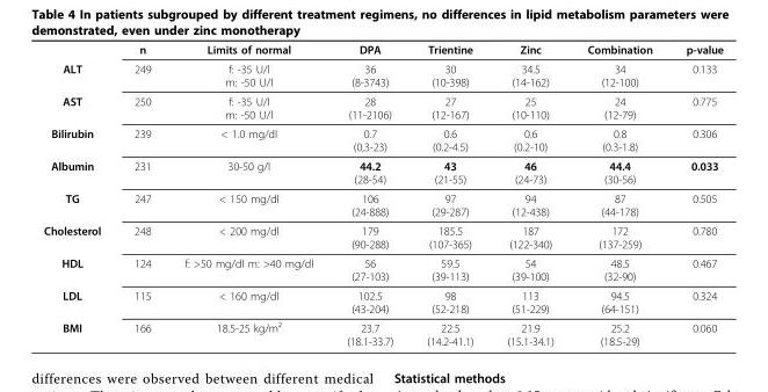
<table><thead><tr><td></td><td>n</td><td>Limits of normal</td><td>DPA</td><td>Trientine</td><td>Zinc</td><td>Combination</td><td>p-value</td></tr></thead><tbody><tr><td>ALT</td><td>249</td><td>f: -35 U/l m: -50 U/l</td><td>36 (8-3743)</td><td>30 (10-398)</td><td>34.5 (14-162)</td><td>34 (12-100)</td><td>0.133</td></tr><tr><td>AST</td><td>250</td><td>f: -35 U/l m: -50 U/l</td><td>28 (11-2106)</td><td>27 (12-167)</td><td>25 (10-110)</td><td>24 (12-79)</td><td>0.775</td></tr><tr><td>Bilirubin</td><td>239</td><td>&lt; 1.0 mg/dl</td><td>0.7 (0,3-23)</td><td>0.6 (0.2-4.5)</td><td>0.6 (0.2-10)</td><td>0.8 (0.3-1.8)</td><td>0.306</td></tr><tr><td>Albumin</td><td>231</td><td>30-50 g/l</td><td>44.2 (28-54)</td><td>43 (21-55)</td><td>46 (24-73)</td><td>44.4 (30-56)</td><td>0.033</td></tr><tr><td>TG</td><td>247</td><td>&lt; 150 mg/dl</td><td>106 (24-888)</td><td>97 (29-287)</td><td>94 (12-438)</td><td>87 (44-178)</td><td>0.505</td></tr><tr><td>Cholesterol</td><td>248</td><td>&lt; 200 mg/dl</td><td>179 (90-288)</td><td>185.5 (107-365)</td><td>187 (122-340)</td><td>172 (137-259)</td><td>0.780</td></tr><tr><td>HDL</td><td>124</td><td>f: &gt;50 mg/dl m: &gt;40 mg/dl</td><td>56 (27-103)</td><td>59.5 (39-113)</td><td>54 (39-100)</td><td>48.5 (32-90)</td><td>0.467</td></tr><tr><td>LDL</td><td>115</td><td>&lt; 160 mg/dl</td><td>102.5 (43-204)</td><td>98 (52-218)</td><td>113 (51-229)</td><td>94.5 (64-151)</td><td>0.324</td></tr><tr><td>BMI</td><td>166</td><td>18.5-25 kg/m²</td><td>23.7 (18.1-33.7)</td><td>22.5 (14.2-41.1)</td><td>21.9 (15.1-34.1)</td><td>25.2 (18.5-29)</td><td>0.060</td></tr></tbody></table>